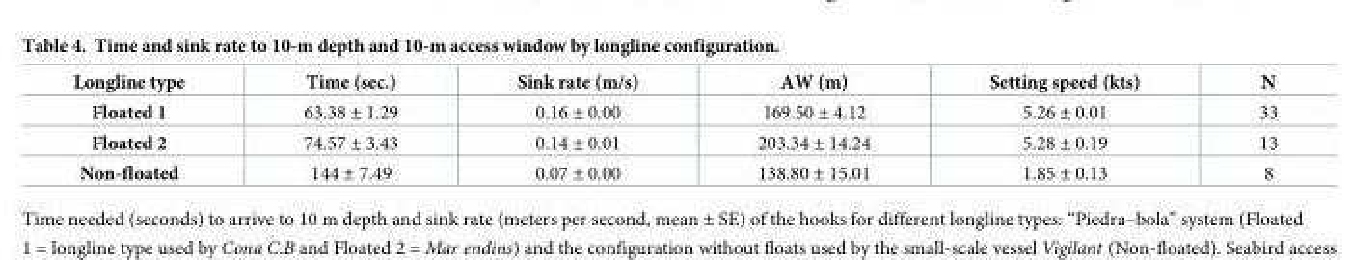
<table><thead><tr><td>Longline type</td><td>Time (sec.)</td><td>Sink rate (m/s)</td><td>AW (m)</td><td>Setting speed (kts)</td><td>N</td></tr></thead><tbody><tr><td>Floated 1</td><td>63.38 ± 1.29</td><td>0.16 ± 0.00</td><td>169.50 ± 4.12</td><td>5.26 ± 0.01</td><td>33</td></tr><tr><td>Floated 2</td><td>74.57 ± 3.43</td><td>0.14 ± 0.01</td><td>203.34 ± 14.24</td><td>5.28 ± 0.19</td><td>13</td></tr><tr><td>Non-floated</td><td>144 ± 7.49</td><td>0.07 ± 0.00</td><td>138.80 ± 15.01</td><td>1.85 ± 0.13</td><td>8</td></tr></tbody></table>